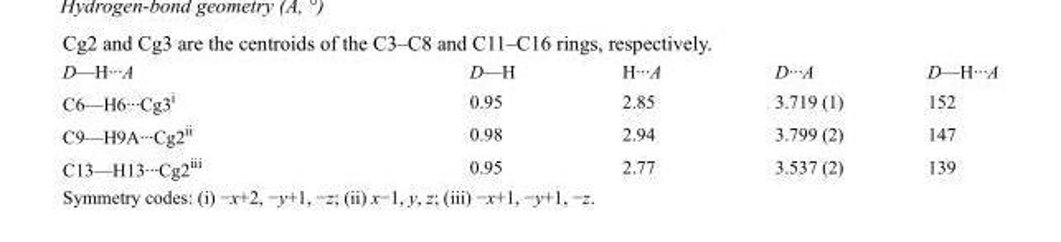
<table><tbody><tr><td>D—H···A</td><td>D—H</td><td>H···A</td><td>D···A</td><td>D—H···A</td></tr><tr><td>C6—H6···Cg3<sup>i</sup></td><td>0.95</td><td>2.85</td><td>3.719 (1)</td><td>152</td></tr><tr><td>C9—H9A···Cg2<sup>ii</sup></td><td>0.98</td><td>2.94</td><td>3.799 (2)</td><td>147</td></tr><tr><td>C13—H13···Cg2<sup>iii</sup></td><td>0.95</td><td>2.77</td><td>3.537 (2)</td><td>139</td></tr></tbody></table>